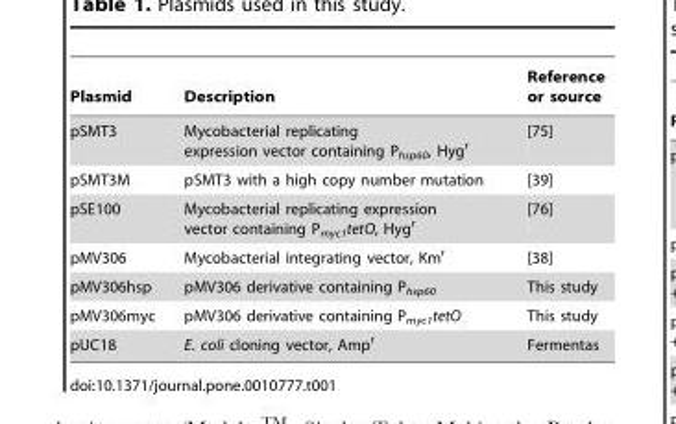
<table><thead><tr><td>Plasmid</td><td>Description</td><td>Reference or source</td></tr></thead><tbody><tr><td>pSMT3</td><td>Mycobacterial replicating expression vector containing P<sub>hsp60</sub>, Hyg<sup>r</sup></td><td>[75]</td></tr><tr><td>pSMT3M</td><td>pSMT3 with a high copy number mutation</td><td>[39]</td></tr><tr><td>pSE100</td><td>Mycobacterial replicating expression vector containing P<sub>myc1</sub>tetO, Hyg<sup>r</sup></td><td>[76]</td></tr><tr><td>pMV306</td><td>Mycobacterial integrating vector, Km<sup>r</sup></td><td>[38]</td></tr><tr><td>pMV306hsp</td><td>pMV306 derivative containing P<sub>hsp60</sub></td><td>This study</td></tr><tr><td>pMV306myc</td><td>pMV306 derivative containing P<sub>myc1</sub>tetO</td><td>This study</td></tr><tr><td>pUC18</td><td>E. coli cloning vector, Amp<sup>r</sup></td><td>Fermentas</td></tr></tbody></table>